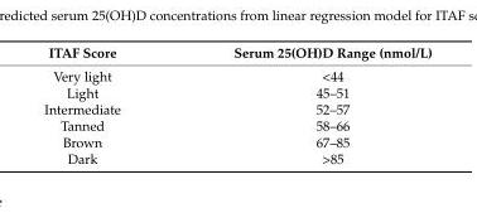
<table><thead><tr><td>ITAF Score</td><td>Serum 25(OH)D Range (nmol/L)</td></tr></thead><tbody><tr><td>Very light</td><td>&lt;44</td></tr><tr><td>Light</td><td>45–51</td></tr><tr><td>Intermediate</td><td>52–57</td></tr><tr><td>Tanned</td><td>58–66</td></tr><tr><td>Brown</td><td>67–85</td></tr><tr><td>Dark</td><td>&gt;85</td></tr></tbody></table>